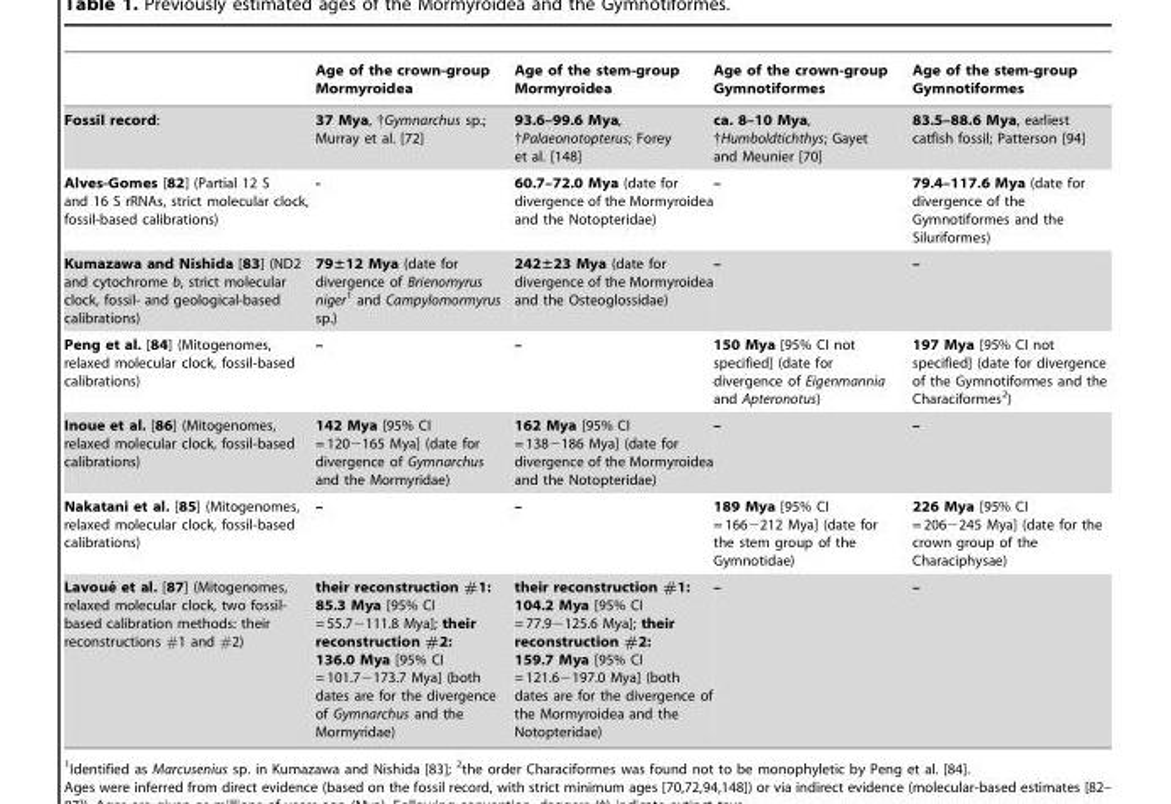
<table><thead><tr><td></td><td>Age of the crown-group Mormyroidea</td><td>Age of the stem-group Mormyroidea</td><td>Age of the crown-group Gymnotiformes</td><td>Age of the stem-group Gymnotiformes</td></tr></thead><tbody><tr><td>Fossil record:</td><td>37 Mya, †Gymnarchus sp.; Murray et al. [72]</td><td>93.6–99.6 Mya, †Palaeonotopterus; Forey et al. [148]</td><td>ca. 8–10 Mya, †Humboldtichthys; Gayet and Meunier [70]</td><td>83.5–88.6 Mya, earliest catfish fossil; Patterson [94]</td></tr><tr><td>Alves-Gomes [82] (Partial 12 S and 16 S rRNAs, strict molecular clock, fossil-based calibrations)</td><td>-</td><td>60.7–72.0 Mya (date for divergence of the Mormyroidea and the Notopteridae)</td><td>–</td><td>79.4–117.6 Mya (date for divergence of the Gymnotiformes and the Siluriformes)</td></tr><tr><td>Kumazawa and Nishida [83] (ND2 and cytochrome b, strict molecular clock, fossil- and geological-based calibrations)</td><td>79±12 Mya (date for divergence of Brienomyrus niger1 and Campylomormyrus sp.)</td><td>242±23 Mya (date for divergence of the Mormyroidea and the Osteoglossidae)</td><td>–</td><td>–</td></tr><tr><td>Peng et al. [84] (Mitogenomes, relaxed molecular clock, fossil-based calibrations)</td><td>–</td><td>–</td><td>150 Mya [95% CI not specified] (date for divergence of Eigenmannia and Apteronotus)</td><td>197 Mya [95% CI not specified] (date for divergence of the Gymnotiformes and the Characiformes<sup>2</sup>)</td></tr><tr><td>Inoue et al. [86] (Mitogenomes, relaxed molecular clock, fossil-based calibrations)</td><td>142 Mya [95% CI = 120−165 Mya] (date for divergence of Gymnarchus and the Mormyridae)</td><td>162 Mya [95% CI = 138−186 Mya] (date for divergence of the Mormyroidea and the Notopteridae)</td><td>–</td><td>–</td></tr><tr><td>Nakatani et al. [85] (Mitogenomes, relaxed molecular clock, fossil-based calibrations)</td><td>–</td><td>–</td><td>189 Mya [95% CI = 166−212 Mya] (date for the stem group of the Gymnotidae)</td><td>226 Mya [95% CI = 206−245 Mya] (date for the crown group of the Characiphysae)</td></tr><tr><td>Lavoue´ et al. [87] (Mitogenomes, relaxed molecular clock, two fossil- based calibration methods: their reconstructions #1 and #2)</td><td>their reconstruction #1: 85.3 Mya [95% CI = 55.7−111.8 Mya]; their reconstruction #2: 136.0 Mya [95% CI = 101.7−173.7 Mya] (both dates are for the divergence of Gymnarchus and the Mormyridae)</td><td>their reconstruction #1: 104.2 Mya [95% CI = 77.9−125.6 Mya]; their reconstruction #2: 159.7 Mya [95% CI = 121.6−197.0 Mya] (both dates are for the divergence of the Mormyroidea and the Notopteridae)</td><td>–</td><td>–</td></tr></tbody></table>